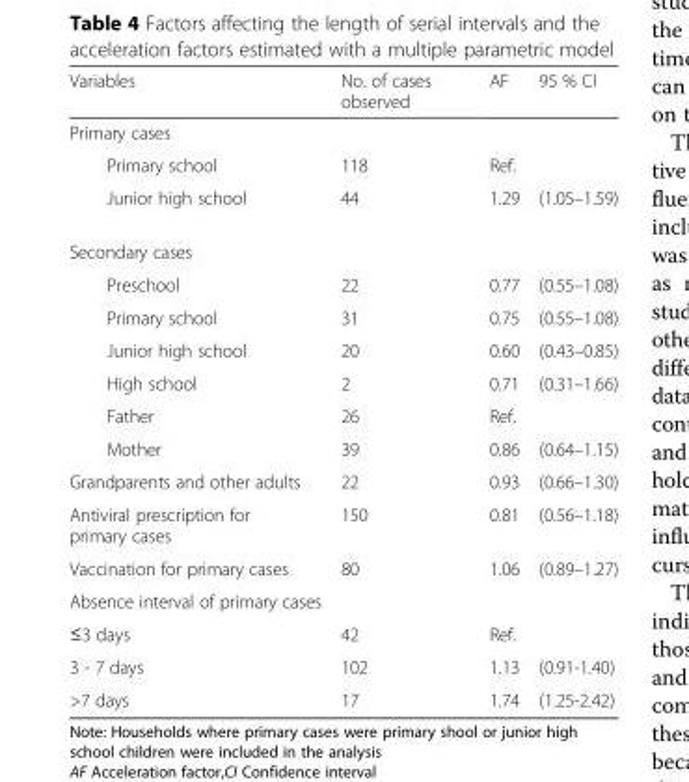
<table><thead><tr><td>Variables</td><td>No. of cases observed</td><td>AF</td><td>95 % CI</td></tr></thead><tbody><tr><td colspan="4">Primary cases</td></tr><tr><td>Primary school</td><td>118</td><td>Ref.</td><td></td></tr><tr><td>Junior high school</td><td>44</td><td>1.29</td><td>(1.05–1.59)</td></tr><tr><td colspan="4">Secondary cases</td></tr><tr><td>Preschool</td><td>22</td><td>0.77</td><td>(0.55–1.08)</td></tr><tr><td>Primary school</td><td>31</td><td>0.75</td><td>(0.55–1.08)</td></tr><tr><td>Junior high school</td><td>20</td><td>0.60</td><td>(0.43–0.85)</td></tr><tr><td>High school</td><td>2</td><td>0.71</td><td>(0.31–1.66)</td></tr><tr><td>Father</td><td>26</td><td>Ref.</td><td></td></tr><tr><td>Mother</td><td>39</td><td>0.86</td><td>(0.64–1.15)</td></tr><tr><td>Grandparents and other adults</td><td>22</td><td>0.93</td><td>(0.66–1.30)</td></tr><tr><td>Antiviral prescription for primary cases</td><td>150</td><td>0.81</td><td>(0.56–1.18)</td></tr><tr><td>Vaccination for primary cases</td><td>80</td><td>1.06</td><td>(0.89–1.27)</td></tr><tr><td colspan="4">Absence interval of primary cases</td></tr><tr><td>≤3 days</td><td>42</td><td>Ref.</td><td></td></tr><tr><td>3 - 7 days</td><td>102</td><td>1.13</td><td>(0.91-1.40)</td></tr><tr><td>&gt;7 days</td><td>17</td><td>1.74</td><td>(1.25-2.42)</td></tr></tbody></table>